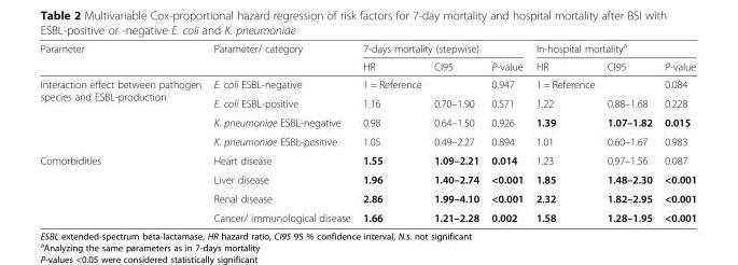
<table><thead><tr><td rowspan="2">Parameter</td><td rowspan="2">Parameter/ category</td><td colspan="3">7-days mortality (stepwise)</td><td colspan="3">In-hospital mortality<sup>a</sup></td></tr><tr><td>HR</td><td>CI95</td><td>P-value</td><td>HR</td><td>CI95</td><td>P-value</td></tr></thead><tbody><tr><td rowspan="4">Interaction effect between pathogen species and ESBL-production</td><td>E. coli ESBL-negative</td><td>1 = Reference</td><td></td><td>0.947</td><td>1 = Reference</td><td></td><td>0.084</td></tr><tr><td>E. coli ESBL-positive</td><td>1.16</td><td>0.70–1.90</td><td>0.571</td><td>1.22</td><td>0.88–1.68</td><td>0.228</td></tr><tr><td>K. pneumoniae ESBL-negative</td><td>0.98</td><td>0.64–1.50</td><td>0.926</td><td>1.39</td><td>1.07–1.82</td><td>0.015</td></tr><tr><td>K. pneumoniae ESBL-positive</td><td>1.05</td><td>0.49–2.27</td><td>0.894</td><td>1.01</td><td>0.60–1.67</td><td>0.983</td></tr><tr><td rowspan="4">Comorbidities</td><td>Heart disease</td><td>1.55</td><td>1.09–2.21</td><td>0.014</td><td>1.23</td><td>0.97–1.56</td><td>0.087</td></tr><tr><td>Liver disease</td><td>1.96</td><td>1.40–2.74</td><td>&lt;0.001</td><td>1.85</td><td>1.48–2.30</td><td>&lt;0.001</td></tr><tr><td>Renal disease</td><td>2.86</td><td>1.99–4.10</td><td>&lt;0.001</td><td>2.32</td><td>1.82–2.95</td><td>&lt;0.001</td></tr><tr><td>Cancer/ immunological disease</td><td>1.66</td><td>1.21–2.28</td><td>0.002</td><td>1.58</td><td>1.28–1.95</td><td>&lt;0.001</td></tr></tbody></table>